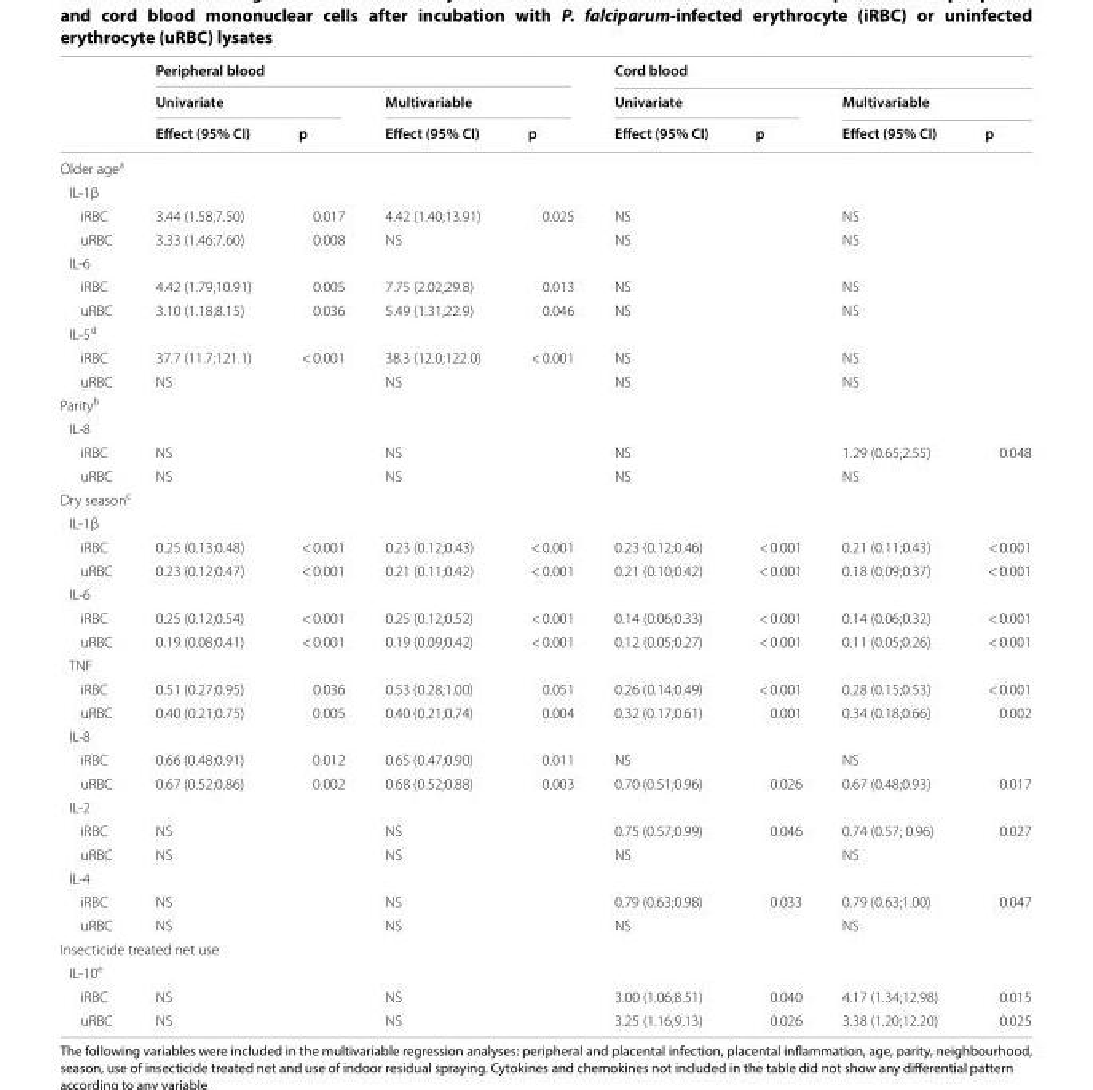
<table><thead><tr><td rowspan="3"></td><td colspan="4">Peripheral blood</td><td colspan="4">Cord blood</td></tr><tr><td colspan="2">Univariate</td><td colspan="2">Multivariable</td><td colspan="2">Univariate</td><td colspan="2">Multivariable</td></tr><tr><td>Effect (95% CI)</td><td>p</td><td>Effect (95% CI)</td><td>p</td><td>Effect (95% CI)</td><td>p</td><td>Effect (95% CI)</td><td>p</td></tr></thead><tbody><tr><td colspan="9">Older age<sup>a</sup></td></tr><tr><td colspan="9">IL-1β</td></tr><tr><td>iRBC</td><td>3.44 (1.58;7.50)</td><td>0.017</td><td>4.42 (1.40;13.91)</td><td>0.025</td><td>NS</td><td></td><td>NS</td><td></td></tr><tr><td>uRBC</td><td>3.33 (1.46;7.60)</td><td>0.008</td><td>NS</td><td></td><td>NS</td><td></td><td>NS</td><td></td></tr><tr><td colspan="9">IL-6</td></tr><tr><td>iRBC</td><td>4.42 (1.79;10.91)</td><td>0.005</td><td>7.75 (2.02;29.8)</td><td>0.013</td><td>NS</td><td></td><td>NS</td><td></td></tr><tr><td>uRBC</td><td>3.10 (1.18;8.15)</td><td>0.036</td><td>5.49 (1.31;22.9)</td><td>0.046</td><td>NS</td><td></td><td>NS</td><td></td></tr><tr><td colspan="9">IL-5<sup>d</sup></td></tr><tr><td>iRBC</td><td>37.7 (11.7;121.1)</td><td>&lt; 0.001</td><td>38.3 (12.0;122.0)</td><td>&lt; 0.001</td><td>NS</td><td></td><td>NS</td><td></td></tr><tr><td>uRBC</td><td>NS</td><td></td><td>NS</td><td></td><td>NS</td><td></td><td>NS</td><td></td></tr><tr><td colspan="9">Parity<sup>b</sup></td></tr><tr><td colspan="9">IL-8</td></tr><tr><td>iRBC</td><td>NS</td><td></td><td>NS</td><td></td><td>NS</td><td></td><td>1.29 (0.65;2.55)</td><td>0.048</td></tr><tr><td>uRBC</td><td>NS</td><td></td><td>NS</td><td></td><td>NS</td><td></td><td>NS</td><td></td></tr><tr><td colspan="9">Dry season<sup>c</sup></td></tr><tr><td colspan="9">IL-1β</td></tr><tr><td>iRBC</td><td>0.25 (0.13;0.48)</td><td>&lt; 0.001</td><td>0.23 (0.12;0.43)</td><td>&lt; 0.001</td><td>0.23 (0.12;0.46)</td><td>&lt; 0.001</td><td>0.21 (0.11;0.43)</td><td>&lt; 0.001</td></tr><tr><td>uRBC</td><td>0.23 (0.12;0.47)</td><td>&lt; 0.001</td><td>0.21 (0.11;0.42)</td><td>&lt; 0.001</td><td>0.21 (0.10;0.42)</td><td>&lt; 0.001</td><td>0.18 (0.09;0.37)</td><td>&lt; 0.001</td></tr><tr><td colspan="9">IL-6</td></tr><tr><td>iRBC</td><td>0.25 (0.12;0.54)</td><td>&lt; 0.001</td><td>0.25 (0.12;0.52)</td><td>&lt; 0.001</td><td>0.14 (0.06;0.33)</td><td>&lt; 0.001</td><td>0.14 (0.06;0.32)</td><td>&lt; 0.001</td></tr><tr><td>uRBC</td><td>0.19 (0.08;0.41)</td><td>&lt; 0.001</td><td>0.19 (0.09;0.42)</td><td>&lt; 0.001</td><td>0.12 (0.05;0.27)</td><td>&lt; 0.001</td><td>0.11 (0.05;0.26)</td><td>&lt; 0.001</td></tr><tr><td colspan="9">TNF</td></tr><tr><td>iRBC</td><td>0.51 (0.27;0.95)</td><td>0.036</td><td>0.53 (0.28;1.00)</td><td>0.051</td><td>0.26 (0.14;0.49)</td><td>&lt; 0.001</td><td>0.28 (0.15;0.53)</td><td>&lt; 0.001</td></tr><tr><td>uRBC</td><td>0.40 (0.21;0.75)</td><td>0.005</td><td>0.40 (0.21;0.74)</td><td>0.004</td><td>0.32 (0.17;0.61)</td><td>0.001</td><td>0.34 (0.18;0.66)</td><td>0.002</td></tr><tr><td colspan="9">IL-8</td></tr><tr><td>iRBC</td><td>0.66 (0.48;0.91)</td><td>0.012</td><td>0.65 (0.47;0.90)</td><td>0.011</td><td>NS</td><td></td><td>NS</td><td></td></tr><tr><td>uRBC</td><td>0.67 (0.52;0.86)</td><td>0.002</td><td>0.68 (0.52;0.88)</td><td>0.003</td><td>0.70 (0.51;0.96)</td><td>0.026</td><td>0.67 (0.48;0.93)</td><td>0.017</td></tr><tr><td colspan="9">IL-2</td></tr><tr><td>iRBC</td><td>NS</td><td></td><td>NS</td><td></td><td>0.75 (0.57;0.99)</td><td>0.046</td><td>0.74 (0.57; 0.96)</td><td>0.027</td></tr><tr><td>uRBC</td><td>NS</td><td></td><td>NS</td><td></td><td>NS</td><td></td><td>NS</td><td></td></tr><tr><td colspan="9">IL-4</td></tr><tr><td>iRBC</td><td>NS</td><td></td><td>NS</td><td></td><td>0.79 (0.63;0.98)</td><td>0.033</td><td>0.79 (0.63;1.00)</td><td>0.047</td></tr><tr><td>uRBC</td><td>NS</td><td></td><td>NS</td><td></td><td>NS</td><td></td><td>NS</td><td></td></tr><tr><td colspan="9">Insecticide treated net use</td></tr><tr><td colspan="9">IL-10<sup>e</sup></td></tr><tr><td>iRBC</td><td>NS</td><td></td><td>NS</td><td></td><td>3.00 (1.06;8.51)</td><td>0.040</td><td>4.17 (1.34;12.98)</td><td>0.015</td></tr><tr><td>uRBC</td><td>NS</td><td></td><td>NS</td><td></td><td>3.25 (1.16;9.13)</td><td>0.026</td><td>3.38 (1.20;12.20)</td><td>0.025</td></tr></tbody></table>